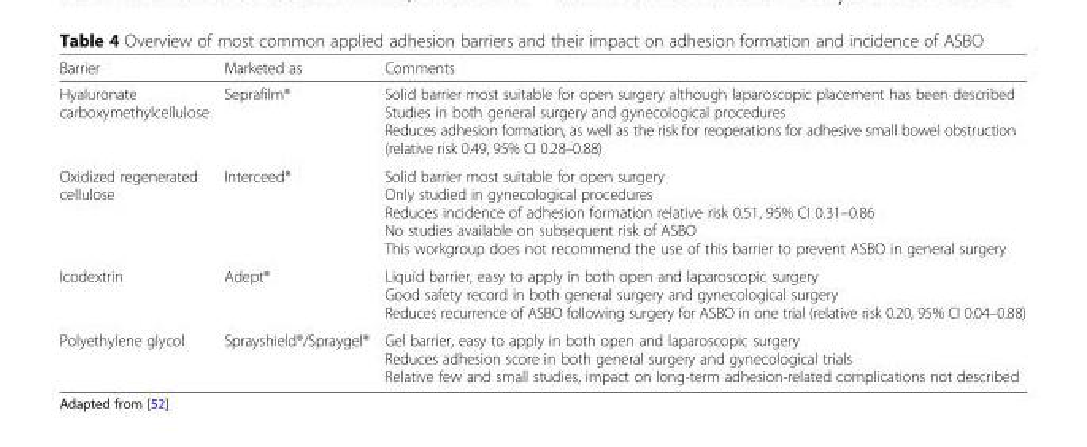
<table><thead><tr><td>Barrier</td><td>Marketed as</td><td>Comments</td></tr></thead><tbody><tr><td>Hyaluronate carboxymethylcellulose</td><td>Seprafilm®</td><td>Solid barrier most suitable for open surgery although laparoscopic placement has been described Studies in both general surgery and gynecological procedures Reduces adhesion formation, as well as the risk for reoperations for adhesive small bowel obstruction (relative risk 0.49, 95% CI 0.28–0.88)</td></tr><tr><td>Oxidized regenerated cellulose</td><td>Interceed®</td><td>Solid barrier most suitable for open surgery Only studied in gynecological procedures Reduces incidence of adhesion formation relative risk 0.51, 95% CI 0.31–0.86 No studies available on subsequent risk of ASBO This workgroup does not recommend the use of this barrier to prevent ASBO in general surgery</td></tr><tr><td>Icodextrin</td><td>Adept®</td><td>Liquid barrier, easy to apply in both open and laparoscopic surgery Good safety record in both general surgery and gynecological surgery Reduces recurrence of ASBO following surgery for ASBO in one trial (relative risk 0.20, 95% CI 0.04–0.88)</td></tr><tr><td>Polyethylene glycol</td><td>Sprayshield®/Spraygel®</td><td>Gel barrier, easy to apply in both open and laparoscopic surgery Reduces adhesion score in both general surgery and gynecological trials Relative few and small studies, impact on long-term adhesion-related complications not described</td></tr></tbody></table>